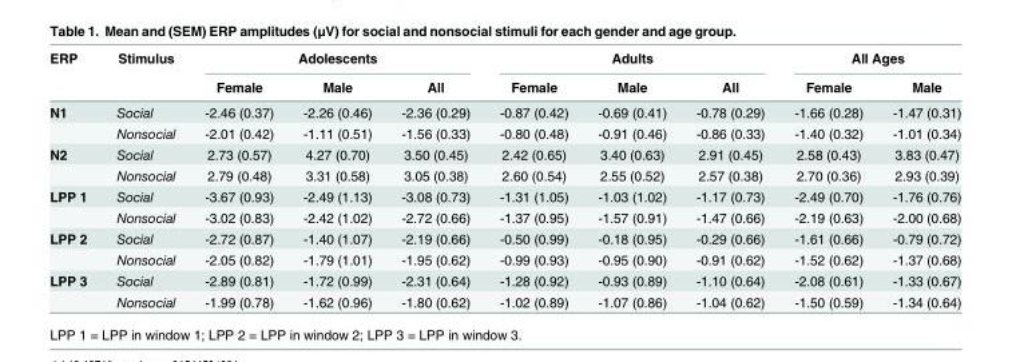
<table><thead><tr><td rowspan="2">ERP</td><td rowspan="2">Stimulus</td><td colspan="3">Adolescents</td><td colspan="3">Adults</td><td colspan="2">All Ages</td></tr><tr><td>Female</td><td>Male</td><td>All</td><td>Female</td><td>Male</td><td>All</td><td>Female</td><td>Male</td></tr></thead><tbody><tr><td rowspan="2">N1</td><td>Social</td><td>-2.46 (0.37)</td><td>-2.26 (0.46)</td><td>-2.36 (0.29)</td><td>-0.87 (0.42)</td><td>-0.69 (0.41)</td><td>-0.78 (0.29)</td><td>-1.66 (0.28)</td><td>-1.47 (0.31)</td></tr><tr><td>Nonsocial</td><td>-2.01 (0.42)</td><td>-1.11 (0.51)</td><td>-1.56 (0.33)</td><td>-0.80 (0.48)</td><td>-0.91 (0.46)</td><td>-0.86 (0.33)</td><td>-1.40 (0.32)</td><td>-1.01 (0.34)</td></tr><tr><td rowspan="2">N2</td><td>Social</td><td>2.73 (0.57)</td><td>4.27 (0.70)</td><td>3.50 (0.45)</td><td>2.42 (0.65)</td><td>3.40 (0.63)</td><td>2.91 (0.45)</td><td>2.58 (0.43)</td><td>3.83 (0.47)</td></tr><tr><td>Nonsocial</td><td>2.79 (0.48)</td><td>3.31 (0.58)</td><td>3.05 (0.38)</td><td>2.60 (0.54)</td><td>2.55 (0.52)</td><td>2.57 (0.38)</td><td>2.70 (0.36)</td><td>2.93 (0.39)</td></tr><tr><td rowspan="2">LPP 1</td><td>Social</td><td>-3.67 (0.93)</td><td>-2.49 (1.13)</td><td>-3.08 (0.73)</td><td>-1.31 (1.05)</td><td>-1.03 (1.02)</td><td>-1.17 (0.73)</td><td>-2.49 (0.70)</td><td>-1.76 (0.76)</td></tr><tr><td>Nonsocial</td><td>-3.02 (0.83)</td><td>-2.42 (1.02)</td><td>-2.72 (0.66)</td><td>-1.37 (0.95)</td><td>-1.57 (0.91)</td><td>-1.47 (0.66)</td><td>-2.19 (0.63)</td><td>-2.00 (0.68)</td></tr><tr><td rowspan="2">LPP 2</td><td>Social</td><td>-2.72 (0.87)</td><td>-1.40 (1.07)</td><td>-2.19 (0.66)</td><td>-0.50 (0.99)</td><td>-0.18 (0.95)</td><td>-0.29 (0.66)</td><td>-1.61 (0.66)</td><td>-0.79 (0.72)</td></tr><tr><td>Nonsocial</td><td>-2.05 (0.82)</td><td>-1.79 (1.01)</td><td>-1.95 (0.62)</td><td>-0.99 (0.93)</td><td>-0.95 (0.90)</td><td>-0.91 (0.62)</td><td>-1.52 (0.62)</td><td>-1.37 (0.68)</td></tr><tr><td rowspan="2">LPP 3</td><td>Social</td><td>-2.89 (0.81)</td><td>-1.72 (0.99)</td><td>-2.31 (0.64)</td><td>-1.28 (0.92)</td><td>-0.93 (0.89)</td><td>-1.10 (0.64)</td><td>-2.08 (0.61)</td><td>-1.33 (0.67)</td></tr><tr><td>Nonsocial</td><td>-1.99 (0.78)</td><td>-1.62 (0.96)</td><td>-1.80 (0.62)</td><td>-1.02 (0.89)</td><td>-1.07 (0.86)</td><td>-1.04 (0.62)</td><td>-1.50 (0.59)</td><td>-1.34 (0.64)</td></tr></tbody></table>